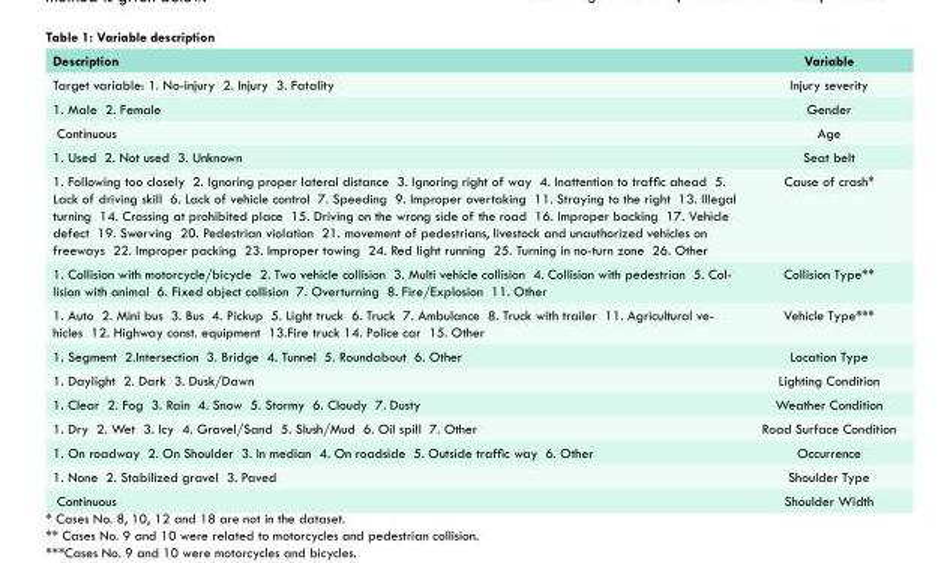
<table><thead><tr><td>Description</td><td>Variable</td></tr></thead><tbody><tr><td>Target variable: 1. No-injury 2. Injury 3. Fatality</td><td>Injury severity</td></tr><tr><td>1. Male 2. Female</td><td>Gender</td></tr><tr><td>Continuous</td><td>Age</td></tr><tr><td>1. Used 2. Not used 3. Unknown</td><td>Seat belt</td></tr><tr><td>1. Following too closely 2. Ignoring proper lateral distance 3. Ignoring right of way 4. Inattention to traffic ahead 5. Lack of driving skill 6. Lack of vehicle control 7. Speeding 9. Improper overtaking 11. Straying to the right 13. Illegal turning 14. Crossing at prohibited place 15. Driving on the wrong side of the road 16. Improper backing 17. Vehicle defect 19. Swerving 20. Pedestrian violation 21. movement of pedestrians, livestock and unauthorized vehicles on freeways 22. Improper packing 23. Improper towing 24. Red light running 25. Turning in no-turn zone 26. Other</td><td>Cause of crash*</td></tr><tr><td>1. Collision with motorcycle/bicycle 2. Two vehicle collision 3. Multi vehicle collision 4. Collision with pedestrian 5. Col- lision with animal 6. Fixed object collision 7. Overturning 8. Fire/Explosion 11. Other</td><td>Collision Type**</td></tr><tr><td>1. Auto 2. Mini bus 3. Bus 4. Pickup 5. Light truck 6. Truck 7. Ambulance 8. Truck with trailer 11. Agricultural ve- hicles 12. Highway const. equipment 13.Fire truck 14. Police car 15. Other</td><td>Vehicle Type***</td></tr><tr><td>1. Segment 2.Intersection 3. Bridge 4. Tunnel 5. Roundabout 6. Other</td><td>Location Type</td></tr><tr><td>1. Daylight 2. Dark 3. Dusk/Dawn</td><td>Lighting Condition</td></tr><tr><td>1. Clear 2. Fog 3. Rain 4. Snow 5. Stormy 6. Cloudy 7. Dusty</td><td>Weather Condition</td></tr><tr><td>1. Dry 2. Wet 3. Icy 4. Gravel/Sand 5. Slush/Mud 6. Oil spill 7. Other</td><td>Road Surface Condition</td></tr><tr><td>1. On roadway 2. On Shoulder 3. In median 4. On roadside 5. Outside traffic way 6. Other</td><td>Occurrence</td></tr><tr><td>1. None 2. Stabilized gravel 3. Paved</td><td>Shoulder Type</td></tr><tr><td>Continuous</td><td>Shoulder Width</td></tr></tbody></table>